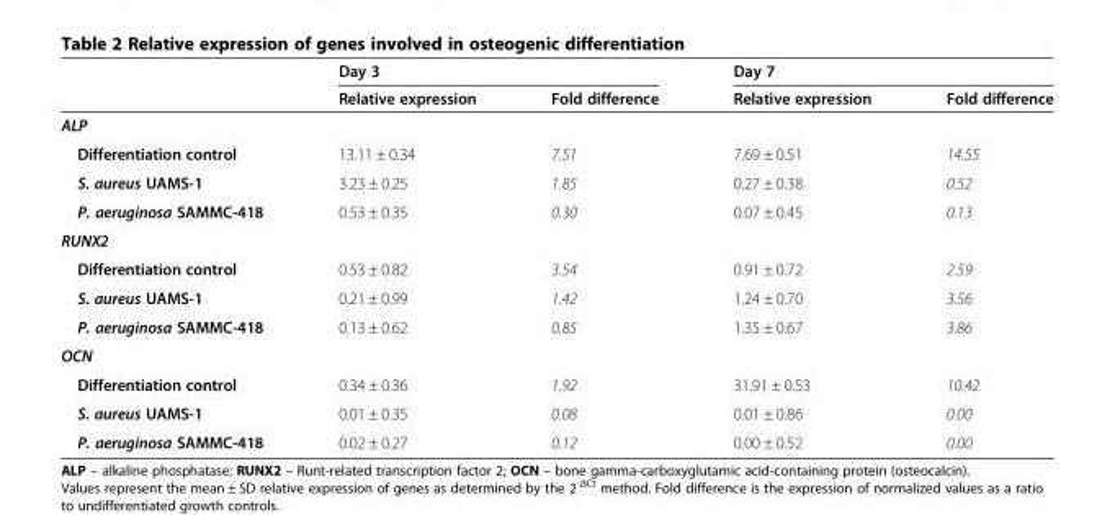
<table><thead><tr><td rowspan="2"></td><td colspan="2">Day 3</td><td colspan="2">Day 7</td></tr><tr><td>Relative expression</td><td>Fold difference</td><td>Relative expression</td><td>Fold difference</td></tr></thead><tbody><tr><td colspan="5">ALP</td></tr><tr><td>Differentiation control</td><td>13.11 ± 0.34</td><td>7.51</td><td>7.69 ± 0.51</td><td>14.55</td></tr><tr><td>S. aureus UAMS-1</td><td>3.23 ± 0.25</td><td>1.85</td><td>0.27 ± 0.38</td><td>0.52</td></tr><tr><td>P. aeruginosa SAMMC-418</td><td>0.53 ± 0.35</td><td>0.30</td><td>0.07 ± 0.45</td><td>0.13</td></tr><tr><td colspan="5">RUNX2</td></tr><tr><td>Differentiation control</td><td>0.53 ± 0.82</td><td>3.54</td><td>0.91 ± 0.72</td><td>2.59</td></tr><tr><td>S. aureus UAMS-1</td><td>0.21 ± 0.99</td><td>1.42</td><td>1.24 ± 0.70</td><td>3.56</td></tr><tr><td>P. aeruginosa SAMMC-418</td><td>0.13 ± 0.62</td><td>0.85</td><td>1.35 ± 0.67</td><td>3.86</td></tr><tr><td colspan="5">OCN</td></tr><tr><td>Differentiation control</td><td>0.34 ± 0.36</td><td>1.92</td><td>31.91 ± 0.53</td><td>10.42</td></tr><tr><td>S. aureus UAMS-1</td><td>0.01 ± 0.35</td><td>0.08</td><td>0.01 ± 0.86</td><td>0.00</td></tr><tr><td>P. aeruginosa SAMMC-418</td><td>0.02 ± 0.27</td><td>0.12</td><td>0.00 ± 0.52</td><td>0.00</td></tr></tbody></table>